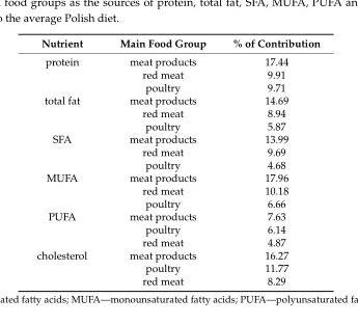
<table><thead><tr><td>Nutrient</td><td>Main Food Group</td><td>% of Contribution</td></tr></thead><tbody><tr><td rowspan="3">protein</td><td>meat products</td><td>17.44</td></tr><tr><td>red meat</td><td>9.91</td></tr><tr><td>poultry</td><td>9.71</td></tr><tr><td rowspan="3">total fat</td><td>meat products</td><td>14.69</td></tr><tr><td>red meat</td><td>8.94</td></tr><tr><td>poultry</td><td>5.87</td></tr><tr><td rowspan="3">SFA</td><td>meat products</td><td>13.99</td></tr><tr><td>red meat</td><td>9.69</td></tr><tr><td>poultry</td><td>4.68</td></tr><tr><td rowspan="3">MUFA</td><td>meat products</td><td>17.96</td></tr><tr><td>red meat</td><td>10.18</td></tr><tr><td>poultry</td><td>6.66</td></tr><tr><td rowspan="3">PUFA</td><td>meat products</td><td>7.63</td></tr><tr><td>poultry</td><td>6.14</td></tr><tr><td>red meat</td><td>4.87</td></tr><tr><td rowspan="3">cholesterol</td><td>meat products</td><td>16.27</td></tr><tr><td>poultry</td><td>11.77</td></tr><tr><td>red meat</td><td>8.29</td></tr></tbody></table>